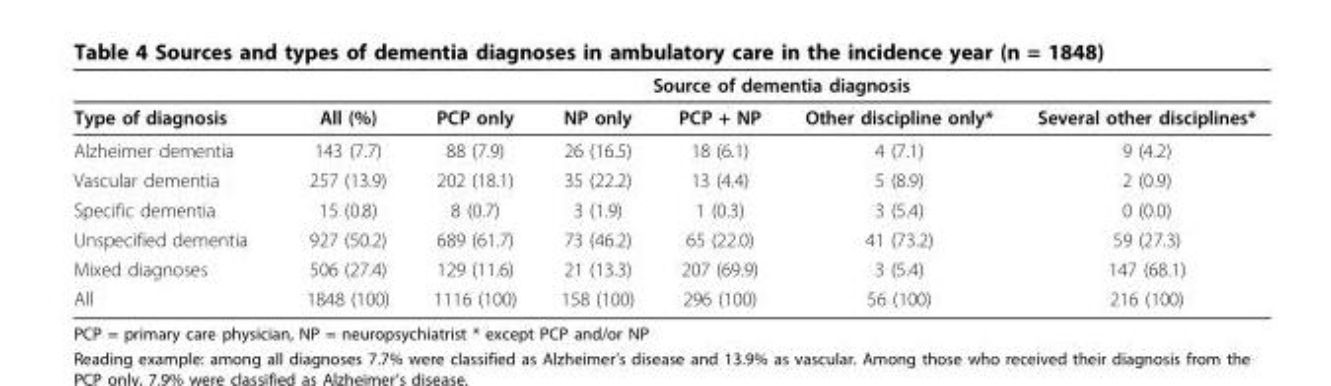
<table><thead><tr><td rowspan="2">Type of diagnosis</td><td colspan="6">Source of dementia diagnosis</td></tr><tr><td>All (%)</td><td>PCP only</td><td>NP only</td><td>PCP + NP</td><td>Other discipline only*</td><td>Several other disciplines*</td></tr></thead><tbody><tr><td>Alzheimer dementia</td><td>143 (7.7)</td><td>88 (7.9)</td><td>26 (16.5)</td><td>18 (6.1)</td><td>4 (7.1)</td><td>9 (4.2)</td></tr><tr><td>Vascular dementia</td><td>257 (13.9)</td><td>202 (18.1)</td><td>35 (22.2)</td><td>13 (4.4)</td><td>5 (8.9)</td><td>2 (0.9)</td></tr><tr><td>Specific dementia</td><td>15 (0.8)</td><td>8 (0.7)</td><td>3 (1.9)</td><td>1 (0.3)</td><td>3 (5.4)</td><td>0 (0.0)</td></tr><tr><td>Unspecified dementia</td><td>927 (50.2)</td><td>689 (61.7)</td><td>73 (46.2)</td><td>65 (22.0)</td><td>41 (73.2)</td><td>59 (27.3)</td></tr><tr><td>Mixed diagnoses</td><td>506 (27.4)</td><td>129 (11.6)</td><td>21 (13.3)</td><td>207 (69.9)</td><td>3 (5.4)</td><td>147 (68.1)</td></tr><tr><td>All</td><td>1848 (100)</td><td>1116 (100)</td><td>158 (100)</td><td>296 (100)</td><td>56 (100)</td><td>216 (100)</td></tr></tbody></table>